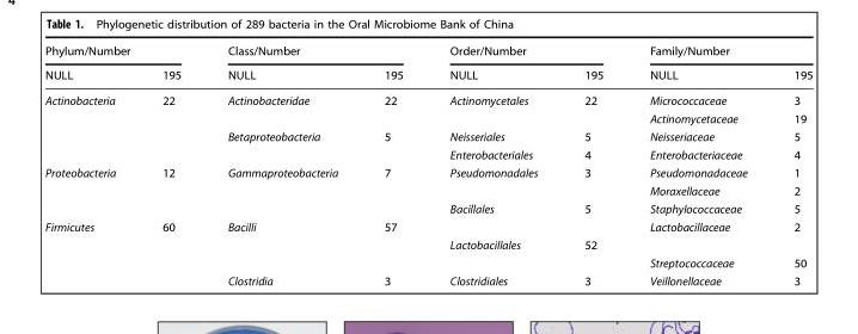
<table><thead><tr><td colspan="2">Phylum/Number</td><td colspan="2">Class/Number</td><td colspan="2">Order/Number</td><td colspan="2">Family/Number</td></tr><tr><td>NULL</td><td>195</td><td>NULL</td><td>195</td><td>NULL</td><td>195</td><td>NULL</td><td>195</td></tr></thead><tbody><tr><td rowspan="4">Actinobacteria</td><td>22</td><td>Actinobacteridae</td><td>22</td><td>Actinomycetales</td><td>22</td><td>Micrococcaceae</td><td>3</td></tr><tr><td></td><td></td><td></td><td></td><td></td><td>Actinomycetaceae</td><td>19</td></tr><tr><td></td><td>Betaproteobacteria</td><td>5</td><td>Neisseriales</td><td>5</td><td>Neisseriaceae</td><td>5</td></tr><tr><td></td><td></td><td></td><td>Enterobacteriales</td><td>4</td><td>Enterobacteriaceae</td><td>4</td></tr><tr><td rowspan="3">Proteobacteria</td><td>12</td><td>Gammaproteobacteria</td><td>7</td><td>Pseudomonadales</td><td>3</td><td>Pseudomonadaceae</td><td>1</td></tr><tr><td></td><td></td><td></td><td></td><td></td><td>Moraxellaceae</td><td>2</td></tr><tr><td></td><td></td><td></td><td>Bacillales</td><td>5</td><td>Staphylococcaceae</td><td>5</td></tr><tr><td rowspan="4">Firmicutes</td><td>60</td><td>Bacilli</td><td>57</td><td></td><td></td><td>Lactobacillaceae</td><td>2</td></tr><tr><td></td><td></td><td></td><td>Lactobacillales</td><td>52</td><td></td><td></td></tr><tr><td></td><td></td><td></td><td></td><td></td><td>Streptococcaceae</td><td>50</td></tr><tr><td></td><td>Clostridia</td><td>3</td><td>Clostridiales</td><td>3</td><td>Veillonellaceae</td><td>3</td></tr></tbody></table>